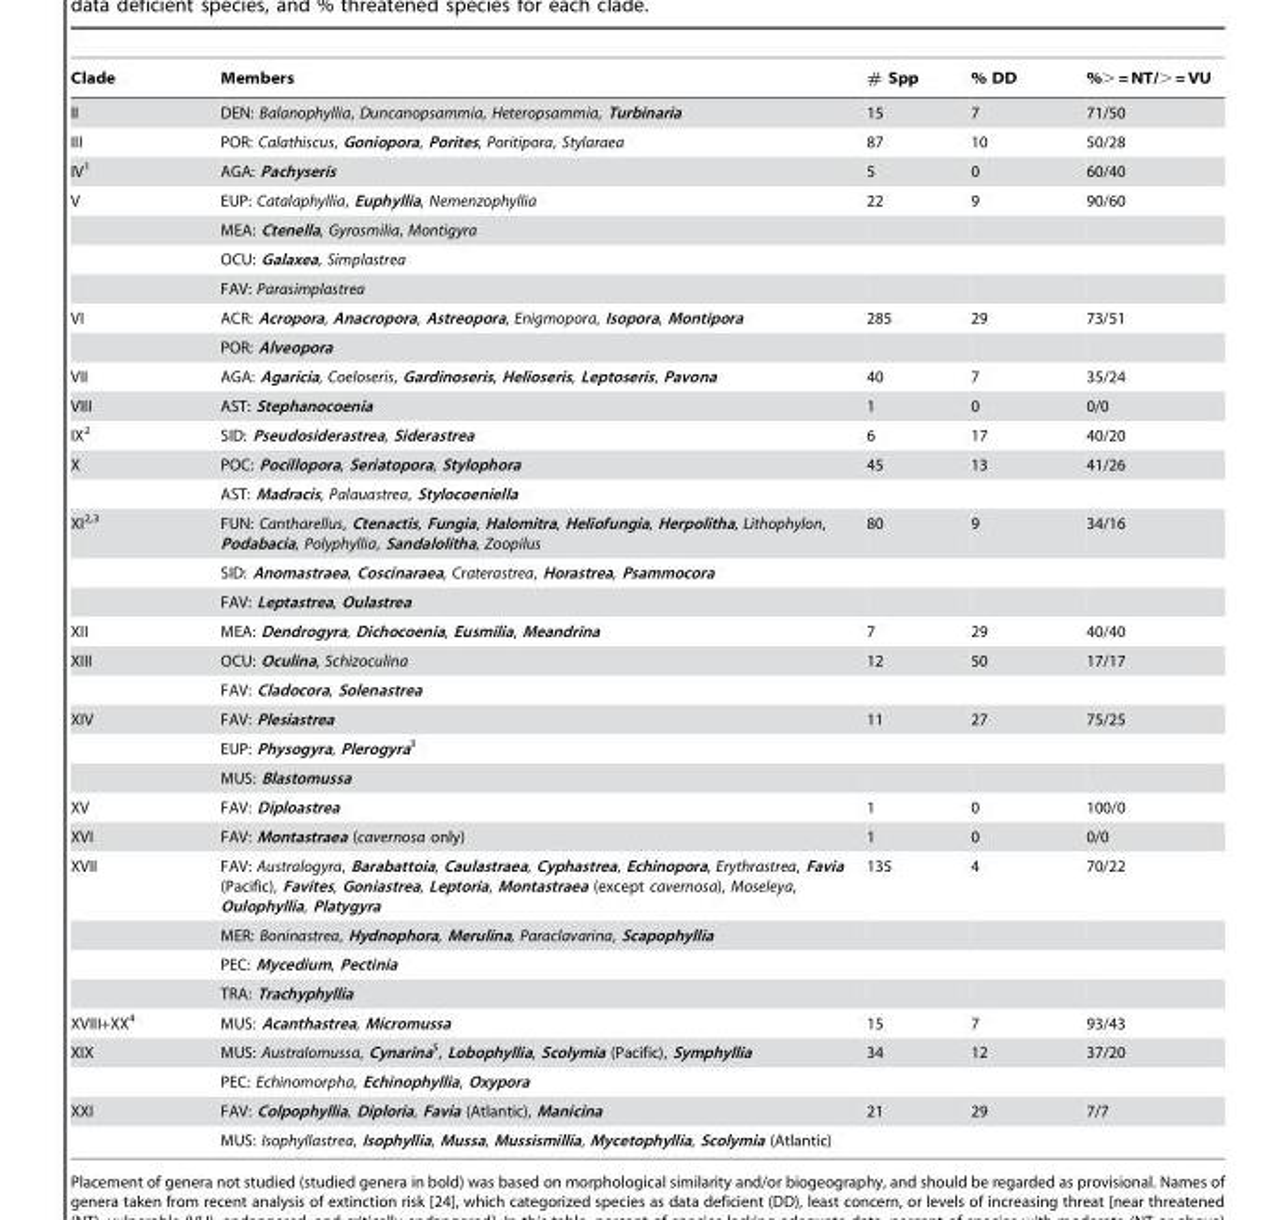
<table><thead><tr><td>Clade</td><td>Members</td><td># Spp</td><td>% DD</td><td>%&gt; = NT/&gt; = VU</td></tr></thead><tbody><tr><td>II</td><td>DEN: Balanophyllia, Duncanopsammia, Heteropsammia, Turbinaria</td><td>15</td><td>7</td><td>71/50</td></tr><tr><td>III</td><td>POR: Calathiscus, Goniopora, Porites, Poritipora, Stylaraea</td><td>87</td><td>10</td><td>50/28</td></tr><tr><td>IV<sup>1</sup></td><td>AGA: Pachyseris</td><td>5</td><td>0</td><td>60/40</td></tr><tr><td rowspan="4">V</td><td>EUP: Catalaphyllia, Euphyllia, Nemenzophyllia</td><td>22</td><td>9</td><td>90/60</td></tr><tr><td>MEA: Ctenella, Gyrosmilia, Montigyra</td><td></td><td></td><td></td></tr><tr><td>OCU: Galaxea, Simplastrea</td><td></td><td></td><td></td></tr><tr><td>FAV: Parasimplastrea</td><td></td><td></td><td></td></tr><tr><td rowspan="2">VI</td><td>ACR: Acropora, Anacropora, Astreopora, Enigmopora, Isopora, Montipora</td><td>285</td><td>29</td><td>73/51</td></tr><tr><td>POR: Alveopora</td><td></td><td></td><td></td></tr><tr><td>VII</td><td>AGA: Agaricia, Coeloseris, Gardinoseris, Helioseris, Leptoseris, Pavona</td><td>40</td><td>7</td><td>35/24</td></tr><tr><td>VIII</td><td>AST: Stephanocoenia</td><td>1</td><td>0</td><td>0/0</td></tr><tr><td>IX<sup>2</sup></td><td>SID: Pseudosiderastrea, Siderastrea</td><td>6</td><td>17</td><td>40/20</td></tr><tr><td rowspan="2">X</td><td>POC: Pocillopora, Seriatopora, Stylophora</td><td>45</td><td>13</td><td>41/26</td></tr><tr><td>AST: Madracis, Palauastrea, Stylocoeniella</td><td></td><td></td><td></td></tr><tr><td rowspan="3">XI<sup>2</sup>,<sup>3</sup></td><td>FUN: Cantharellus, Ctenactis, Fungia, Halomitra, Heliofungia, Herpolitha, Lithophylon, Podabacia, Polyphyllia, Sandalolitha, Zoopilus</td><td>80</td><td>9</td><td>34/16</td></tr><tr><td>SID: Anomastraea, Coscinaraea, Craterastrea, Horastrea, Psammocora</td><td></td><td></td><td></td></tr><tr><td>FAV: Leptastrea, Oulastrea</td><td></td><td></td><td></td></tr><tr><td>XII</td><td>MEA: Dendrogyra, Dichocoenia, Eusmilia, Meandrina</td><td>7</td><td>29</td><td>40/40</td></tr><tr><td rowspan="2">XIII</td><td>OCU: Oculina, Schizoculina</td><td>12</td><td>50</td><td>17/17</td></tr><tr><td>FAV: Cladocora, Solenastrea</td><td></td><td></td><td></td></tr><tr><td rowspan="3">XIV</td><td>FAV: Plesiastrea</td><td>11</td><td>27</td><td>75/25</td></tr><tr><td>EUP: Physogyra, Plerogyra3</td><td></td><td></td><td></td></tr><tr><td>MUS: Blastomussa</td><td></td><td></td><td></td></tr><tr><td>XV</td><td>FAV: Diploastrea</td><td>1</td><td>0</td><td>100/0</td></tr><tr><td>XVI</td><td>FAV: Montastraea (cavernosa only)</td><td>1</td><td>0</td><td>0/0</td></tr><tr><td rowspan="4">XVII</td><td>FAV: Australogyra, Barabattoia, Caulastraea, Cyphastrea, Echinopora, Erythrastrea, Favia (Pacific), Favites, Goniastrea, Leptoria, Montastraea (except cavernosa), Moseleya, Oulophyllia, Platygyra</td><td>135</td><td>4</td><td>70/22</td></tr><tr><td>MER: Boninastrea, Hydnophora, Merulina, Paraclavarina, Scapophyllia</td><td></td><td></td><td></td></tr><tr><td>PEC: Mycedium, Pectinia</td><td></td><td></td><td></td></tr><tr><td>TRA: Trachyphyllia</td><td></td><td></td><td></td></tr><tr><td>XVIII+XX<sup>4</sup></td><td>MUS: Acanthastrea, Micromussa</td><td>15</td><td>7</td><td>93/43</td></tr><tr><td rowspan="2">XIX</td><td>MUS: Australomussa, Cynarina5, Lobophyllia, Scolymia (Pacific), Symphyllia</td><td>34</td><td>12</td><td>37/20</td></tr><tr><td>PEC: Echinomorpha, Echinophyllia, Oxypora</td><td></td><td></td><td></td></tr><tr><td rowspan="2">XXI</td><td>FAV: Colpophyllia, Diploria, Favia (Atlantic), Manicina</td><td>21</td><td>29</td><td>7/7</td></tr><tr><td>MUS: Isophyllastrea, Isophyllia, Mussa, Mussismillia, Mycetophyllia, Scolymia (Atlantic)</td><td></td><td></td><td></td></tr></tbody></table>